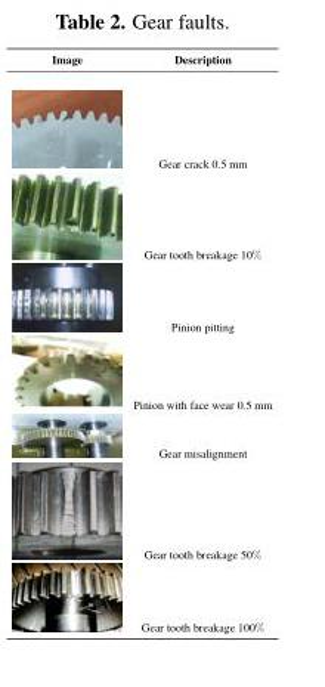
<table><thead><tr><td>Image</td><td>Description</td></tr></thead><tbody><tr><td></td><td>Gear crack 0.5 mm</td></tr><tr><td></td><td>Gear tooth breakage 10%</td></tr><tr><td></td><td>Pinion pitting</td></tr><tr><td></td><td>Pinion with face wear 0.5 mm</td></tr><tr><td></td><td>Gear misalignment</td></tr><tr><td></td><td>Gear tooth breakage 50%</td></tr><tr><td></td><td>Gear tooth breakage 100%</td></tr></tbody></table>